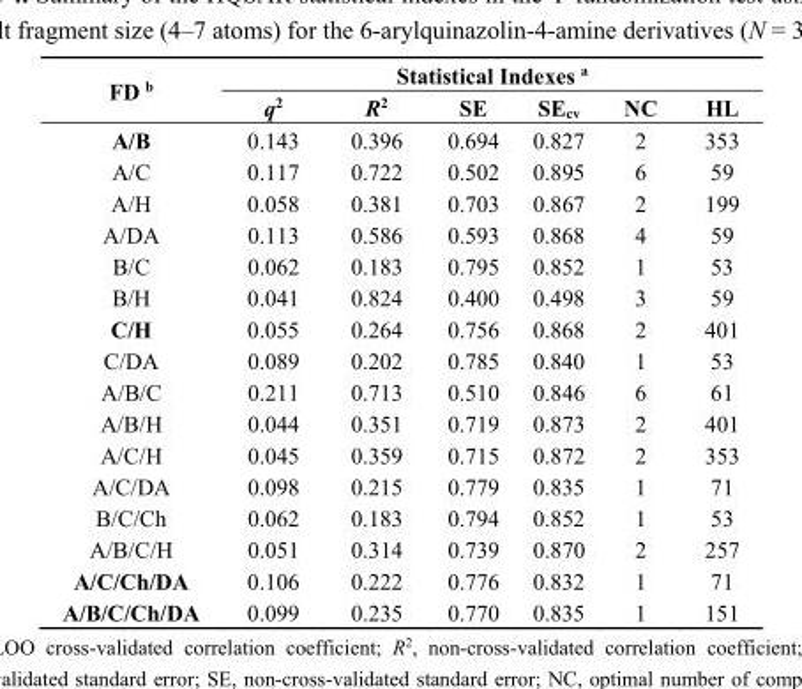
<table><thead><tr><td rowspan="2">FD <sup>b</sup></td><td colspan="6">Statistical Indexes <sup>a</sup></td></tr><tr><td>q<sup>2</sup></td><td>R<sup>2</sup></td><td>SE</td><td>SE<sub>cv</sub></td><td>NC</td><td>HL</td></tr></thead><tbody><tr><td>A/B</td><td>0.143</td><td>0.396</td><td>0.694</td><td>0.827</td><td>2</td><td>353</td></tr><tr><td>A/C</td><td>0.117</td><td>0.722</td><td>0.502</td><td>0.895</td><td>6</td><td>59</td></tr><tr><td>A/H</td><td>0.058</td><td>0.381</td><td>0.703</td><td>0.867</td><td>2</td><td>199</td></tr><tr><td>A/DA</td><td>0.113</td><td>0.586</td><td>0.593</td><td>0.868</td><td>4</td><td>59</td></tr><tr><td>B/C</td><td>0.062</td><td>0.183</td><td>0.795</td><td>0.852</td><td>1</td><td>53</td></tr><tr><td>B/H</td><td>0.041</td><td>0.824</td><td>0.400</td><td>0.498</td><td>3</td><td>59</td></tr><tr><td>C/H</td><td>0.055</td><td>0.264</td><td>0.756</td><td>0.868</td><td>2</td><td>401</td></tr><tr><td>C/DA</td><td>0.089</td><td>0.202</td><td>0.785</td><td>0.840</td><td>1</td><td>53</td></tr><tr><td>A/B/C</td><td>0.211</td><td>0.713</td><td>0.510</td><td>0.846</td><td>6</td><td>61</td></tr><tr><td>A/B/H</td><td>0.044</td><td>0.351</td><td>0.719</td><td>0.873</td><td>2</td><td>401</td></tr><tr><td>A/C/H</td><td>0.045</td><td>0.359</td><td>0.715</td><td>0.872</td><td>2</td><td>353</td></tr><tr><td>A/C/DA</td><td>0.098</td><td>0.215</td><td>0.779</td><td>0.835</td><td>1</td><td>71</td></tr><tr><td>B/C/Ch</td><td>0.062</td><td>0.183</td><td>0.794</td><td>0.852</td><td>1</td><td>53</td></tr><tr><td>A/B/C/H</td><td>0.051</td><td>0.314</td><td>0.739</td><td>0.870</td><td>2</td><td>257</td></tr><tr><td>A/C/Ch/DA</td><td>0.106</td><td>0.222</td><td>0.776</td><td>0.832</td><td>1</td><td>71</td></tr><tr><td>A/B/C/Ch/DA</td><td>0.099</td><td>0.235</td><td>0.770</td><td>0.835</td><td>1</td><td>151</td></tr></tbody></table>